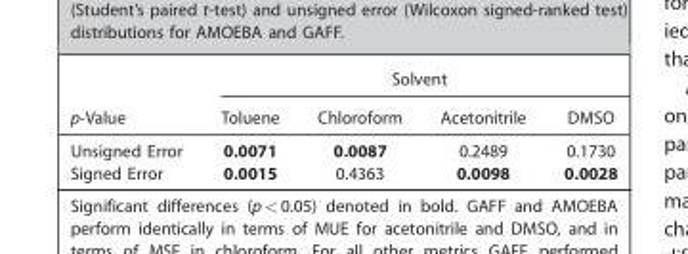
<table><thead><tr><td rowspan="2">p-Value</td><td colspan="4">Solvent</td></tr><tr><td>Toluene</td><td>Chloroform</td><td>Acetonitrile</td><td>DMSO</td></tr></thead><tbody><tr><td>Unsigned Error</td><td>0.0071</td><td>0.0087</td><td>0.2489</td><td>0.1730</td></tr><tr><td>Signed Error</td><td>0.0015</td><td>0.4363</td><td>0.0098</td><td>0.0028</td></tr></tbody></table>